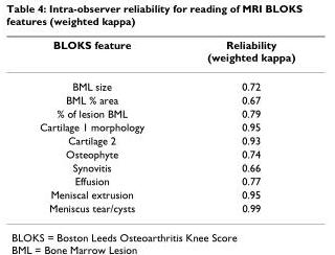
<table><thead><tr><td>BLOKS feature</td><td>Reliability (weighted kappa)</td></tr></thead><tbody><tr><td>BML size</td><td>0.72</td></tr><tr><td>BML % area</td><td>0.67</td></tr><tr><td>% of lesion BML</td><td>0.79</td></tr><tr><td>Cartilage 1 morphology</td><td>0.95</td></tr><tr><td>Cartilage 2</td><td>0.93</td></tr><tr><td>Osteophyte</td><td>0.74</td></tr><tr><td>Synovitis</td><td>0.66</td></tr><tr><td>Effusion</td><td>0.77</td></tr><tr><td>Meniscal extrusion</td><td>0.95</td></tr><tr><td>Meniscus tear/cysts</td><td>0.99</td></tr></tbody></table>